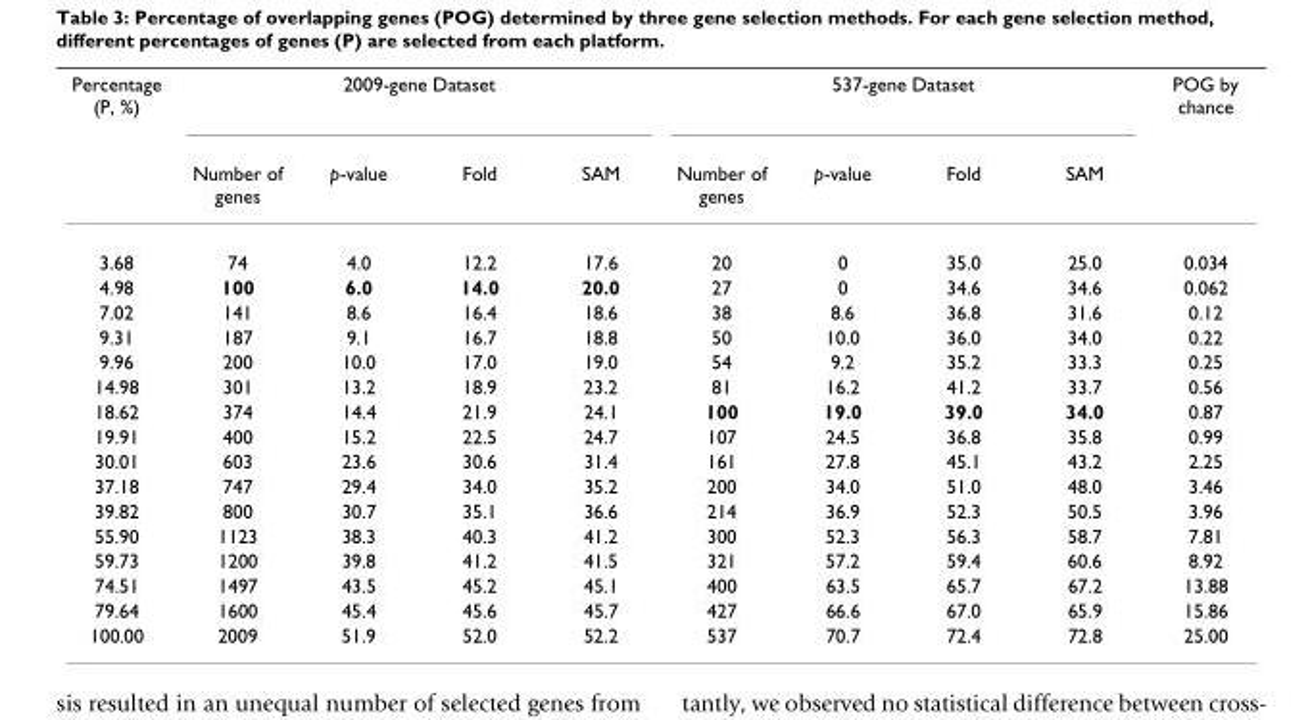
<table><thead><tr><td rowspan="2">Percentage (P, %)</td><td colspan="4">2009-gene Dataset</td><td colspan="4">537-gene Dataset</td><td rowspan="2">POG by chance</td></tr><tr><td>Number of genes</td><td>p-value</td><td>Fold</td><td>SAM</td><td>Number of genes</td><td>p-value</td><td>Fold</td><td>SAM</td></tr></thead><tbody><tr><td>3.68</td><td>74</td><td>4.0</td><td>12.2</td><td>17.6</td><td>20</td><td>0</td><td>35.0</td><td>25.0</td><td>0.034</td></tr><tr><td>4.98</td><td>100</td><td>6.0</td><td>14.0</td><td>20.0</td><td>27</td><td>0</td><td>34.6</td><td>34.6</td><td>0.062</td></tr><tr><td>7.02</td><td>141</td><td>8.6</td><td>16.4</td><td>18.6</td><td>38</td><td>8.6</td><td>36.8</td><td>31.6</td><td>0.12</td></tr><tr><td>9.31</td><td>187</td><td>9.1</td><td>16.7</td><td>18.8</td><td>50</td><td>10.0</td><td>36.0</td><td>34.0</td><td>0.22</td></tr><tr><td>9.96</td><td>200</td><td>10.0</td><td>17.0</td><td>19.0</td><td>54</td><td>9.2</td><td>35.2</td><td>33.3</td><td>0.25</td></tr><tr><td>14.98</td><td>301</td><td>13.2</td><td>18.9</td><td>23.2</td><td>81</td><td>16.2</td><td>41.2</td><td>33.7</td><td>0.56</td></tr><tr><td>18.62</td><td>374</td><td>14.4</td><td>21.9</td><td>24.1</td><td>100</td><td>19.0</td><td>39.0</td><td>34.0</td><td>0.87</td></tr><tr><td>19.91</td><td>400</td><td>15.2</td><td>22.5</td><td>24.7</td><td>107</td><td>24.5</td><td>36.8</td><td>35.8</td><td>0.99</td></tr><tr><td>30.01</td><td>603</td><td>23.6</td><td>30.6</td><td>31.4</td><td>161</td><td>27.8</td><td>45.1</td><td>43.2</td><td>2.25</td></tr><tr><td>37.18</td><td>747</td><td>29.4</td><td>34.0</td><td>35.2</td><td>200</td><td>34.0</td><td>51.0</td><td>48.0</td><td>3.46</td></tr><tr><td>39.82</td><td>800</td><td>30.7</td><td>35.1</td><td>36.6</td><td>214</td><td>36.9</td><td>52.3</td><td>50.5</td><td>3.96</td></tr><tr><td>55.90</td><td>1123</td><td>38.3</td><td>40.3</td><td>41.2</td><td>300</td><td>52.3</td><td>56.3</td><td>58.7</td><td>7.81</td></tr><tr><td>59.73</td><td>1200</td><td>39.8</td><td>41.2</td><td>41.5</td><td>321</td><td>57.2</td><td>59.4</td><td>60.6</td><td>8.92</td></tr><tr><td>74.51</td><td>1497</td><td>43.5</td><td>45.2</td><td>45.1</td><td>400</td><td>63.5</td><td>65.7</td><td>67.2</td><td>13.88</td></tr><tr><td>79.64</td><td>1600</td><td>45.4</td><td>45.6</td><td>45.7</td><td>427</td><td>66.6</td><td>67.0</td><td>65.9</td><td>15.86</td></tr><tr><td>100.00</td><td>2009</td><td>51.9</td><td>52.0</td><td>52.2</td><td>537</td><td>70.7</td><td>72.4</td><td>72.8</td><td>25.00</td></tr></tbody></table>